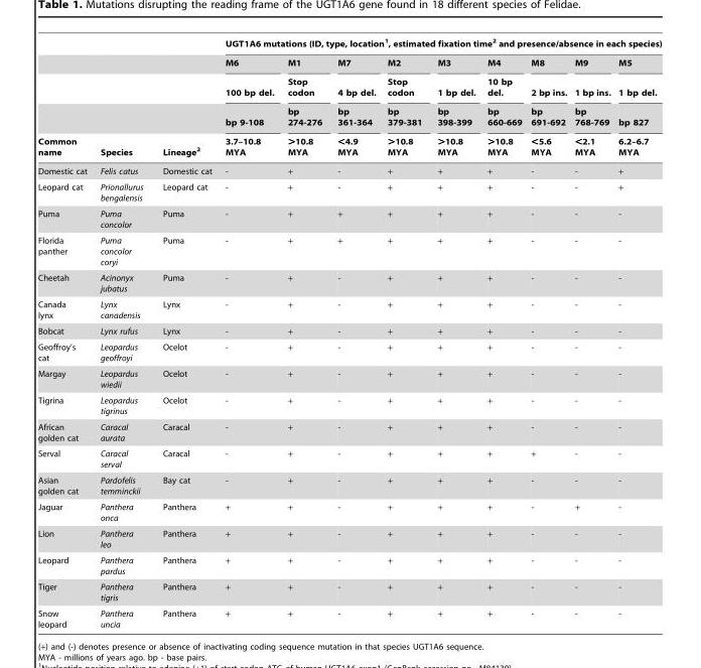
<table><thead><tr><td rowspan="5">Common name</td><td rowspan="5">Species</td><td rowspan="5">Lineage<sup>2</sup></td><td colspan="9">UGT1A6 mutations (ID, type, location<sup>1</sup>, estimated fixation time<sup>2</sup> and presence/absence in each species)</td></tr><tr><td rowspan="4">M6 100 bp del. bp 9-108 3.7–10.8 MYA</td><td rowspan="4">M1 Stop codon bp 274-276 &gt;10.8 MYA</td><td rowspan="4">M7 4 bp del. bp 361-364 &lt;4.9 MYA</td><td rowspan="4">M2 Stop codon bp 379-381 &gt;10.8 MYA</td><td rowspan="4">M3 1 bp del. bp 398-399 &gt;10.8 MYA</td><td rowspan="4">M4 10 bp del. bp 660-669 &gt;10.8 MYA</td><td rowspan="4">M8 2 bp ins. bp 691-692 &lt;5.6 MYA</td><td rowspan="4">M9 1 bp ins. bp 768-769 &lt;2.1 MYA</td><td rowspan="4">M5 1 bp del. bp 827 6.2–6.7 MYA</td></tr><tr></tr><tr></tr><tr></tr></thead><tbody><tr><td>Domestic cat</td><td>Felis catus</td><td>Domestic cat</td><td>-</td><td>+</td><td>-</td><td>+</td><td>+</td><td>+</td><td>-</td><td>-</td><td>+</td></tr><tr><td>Leopard cat</td><td>Prionallurus bengalensis</td><td>Leopard cat</td><td>-</td><td>+</td><td>-</td><td>+</td><td>+</td><td>+</td><td>-</td><td>-</td><td>+</td></tr><tr><td>Puma</td><td>Puma concolor</td><td>Puma</td><td>-</td><td>+</td><td>+</td><td>+</td><td>+</td><td>+</td><td>-</td><td>-</td><td>-</td></tr><tr><td>Florida panther</td><td>Puma concolor coryi</td><td>Puma</td><td>-</td><td>+</td><td>+</td><td>+</td><td>+</td><td>+</td><td>-</td><td>-</td><td>-</td></tr><tr><td>Cheetah</td><td>Acinonyx jubatus</td><td>Puma</td><td>-</td><td>+</td><td>-</td><td>+</td><td>+</td><td>+</td><td>-</td><td>-</td><td>-</td></tr><tr><td>Canada lynx</td><td>Lynx canadensis</td><td>Lynx</td><td>-</td><td>+</td><td>-</td><td>+</td><td>+</td><td>+</td><td>-</td><td>-</td><td>-</td></tr><tr><td>Bobcat</td><td>Lynx rufus</td><td>Lynx</td><td>-</td><td>+</td><td>-</td><td>+</td><td>+</td><td>+</td><td>-</td><td>-</td><td>-</td></tr><tr><td>Geoffroy’s cat</td><td>Leopardus geoffroyi</td><td>Ocelot</td><td>-</td><td>+</td><td>-</td><td>+</td><td>+</td><td>+</td><td>-</td><td>-</td><td>-</td></tr><tr><td>Margay</td><td>Leopardus wiedii</td><td>Ocelot</td><td>-</td><td>+</td><td>-</td><td>+</td><td>+</td><td>+</td><td>-</td><td>-</td><td>-</td></tr><tr><td>Tigrina</td><td>Leopardus tigrinus</td><td>Ocelot</td><td>-</td><td>+</td><td>-</td><td>+</td><td>+</td><td>+</td><td>-</td><td>-</td><td>-</td></tr><tr><td>African golden cat</td><td>Caracal aurata</td><td>Caracal</td><td>-</td><td>+</td><td>-</td><td>+</td><td>+</td><td>+</td><td>-</td><td>-</td><td>-</td></tr><tr><td>Serval</td><td>Caracal serval</td><td>Caracal</td><td>-</td><td>+</td><td>-</td><td>+</td><td>+</td><td>+</td><td>+</td><td>-</td><td>-</td></tr><tr><td>Asian golden cat</td><td>Pardofelis temminckii</td><td>Bay cat</td><td>-</td><td>+</td><td>-</td><td>+</td><td>+</td><td>+</td><td>-</td><td>-</td><td>-</td></tr><tr><td>Jaguar</td><td>Panthera onca</td><td>Panthera</td><td>+</td><td>+</td><td>-</td><td>+</td><td>+</td><td>+</td><td>-</td><td>+</td><td>-</td></tr><tr><td>Lion</td><td>Panthera leo</td><td>Panthera</td><td>+</td><td>+</td><td>-</td><td>+</td><td>+</td><td>+</td><td>-</td><td>-</td><td>-</td></tr><tr><td>Leopard</td><td>Panthera pardus</td><td>Panthera</td><td>+</td><td>+</td><td>-</td><td>+</td><td>+</td><td>+</td><td>-</td><td>-</td><td>-</td></tr><tr><td>Tiger</td><td>Panthera tigris</td><td>Panthera</td><td>+</td><td>+</td><td>-</td><td>+</td><td>+</td><td>+</td><td>-</td><td>-</td><td>-</td></tr><tr><td>Snow leopard</td><td>Panthera uncia</td><td>Panthera</td><td>+</td><td>+</td><td>-</td><td>+</td><td>+</td><td>+</td><td>-</td><td>-</td><td>-</td></tr></tbody></table>